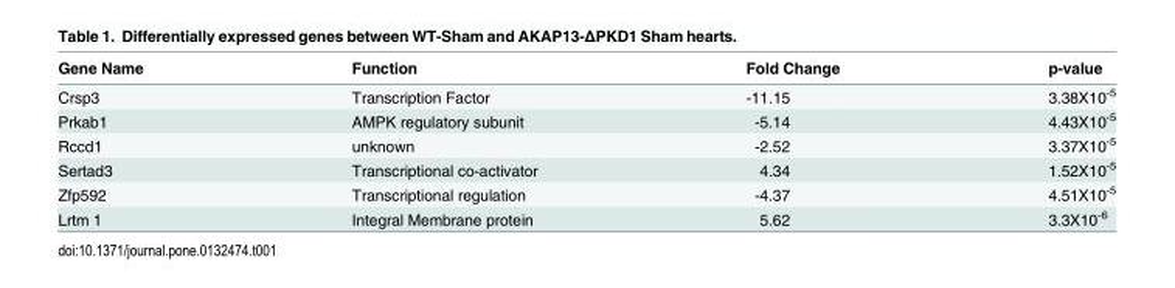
<table><thead><tr><td>Gene Name</td><td>Function</td><td>Fold Change</td><td>p-value</td></tr></thead><tbody><tr><td>Crsp3</td><td>Transcription Factor</td><td>-11.15</td><td>3.38X10<sup>-5</sup></td></tr><tr><td>Prkab1</td><td>AMPK regulatory subunit</td><td>-5.14</td><td>4.43X10<sup>-5</sup></td></tr><tr><td>Rccd1</td><td>unknown</td><td>-2.52</td><td>3.37X10<sup>-5</sup></td></tr><tr><td>Sertad3</td><td>Transcriptional co-activator</td><td>4.34</td><td>1.52X10<sup>-5</sup></td></tr><tr><td>Zfp592</td><td>Transcriptional regulation</td><td>-4.37</td><td>4.51X10<sup>-5</sup></td></tr><tr><td>Lrtm 1</td><td>Integral Membrane protein</td><td>5.62</td><td>3.3X10<sup>-6</sup></td></tr></tbody></table>